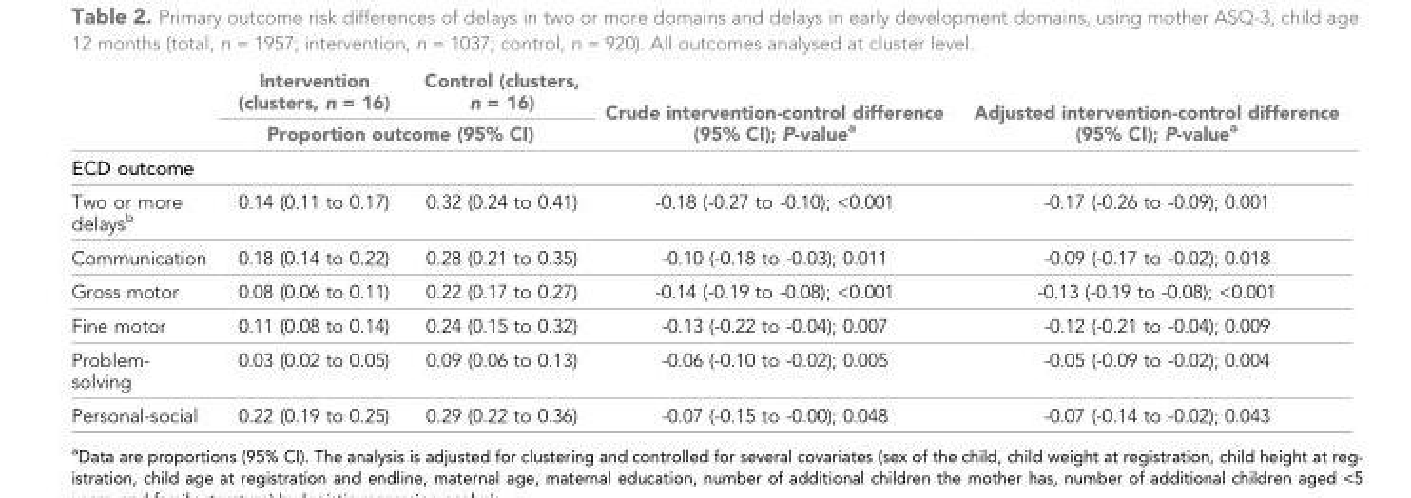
<table><thead><tr><td rowspan="2"></td><td>Intervention (clusters, n = 16)</td><td>Control (clusters, n = 16)</td><td rowspan="2">Crude intervention-control difference (95% CI); P-value<sup>a</sup></td><td rowspan="2">Adjusted intervention-control difference (95% CI); P-value<sup>a</sup></td></tr><tr><td colspan="2">Proportion outcome (95% CI)</td></tr></thead><tbody><tr><td colspan="5">ECD outcome</td></tr><tr><td>Two or more delays<sup>b</sup></td><td>0.14 (0.11 to 0.17)</td><td>0.32 (0.24 to 0.41)</td><td>-0.18 (-0.27 to -0.10); &lt;0.001</td><td>-0.17 (-0.26 to -0.09); 0.001</td></tr><tr><td>Communication</td><td>0.18 (0.14 to 0.22)</td><td>0.28 (0.21 to 0.35)</td><td>-0.10 (-0.18 to -0.03); 0.011</td><td>-0.09 (-0.17 to -0.02); 0.018</td></tr><tr><td>Gross motor</td><td>0.08 (0.06 to 0.11)</td><td>0.22 (0.17 to 0.27)</td><td>-0.14 (-0.19 to -0.08); &lt;0.001</td><td>-0.13 (-0.19 to -0.08); &lt;0.001</td></tr><tr><td>Fine motor</td><td>0.11 (0.08 to 0.14)</td><td>0.24 (0.15 to 0.32)</td><td>-0.13 (-0.22 to -0.04); 0.007</td><td>-0.12 (-0.21 to -0.04); 0.009</td></tr><tr><td>Problem- solving</td><td>0.03 (0.02 to 0.05)</td><td>0.09 (0.06 to 0.13)</td><td>-0.06 (-0.10 to -0.02); 0.005</td><td>-0.05 (-0.09 to -0.02); 0.004</td></tr><tr><td>Personal-social</td><td>0.22 (0.19 to 0.25)</td><td>0.29 (0.22 to 0.36)</td><td>-0.07 (-0.15 to -0.00); 0.048</td><td>-0.07 (-0.14 to -0.02); 0.043</td></tr></tbody></table>